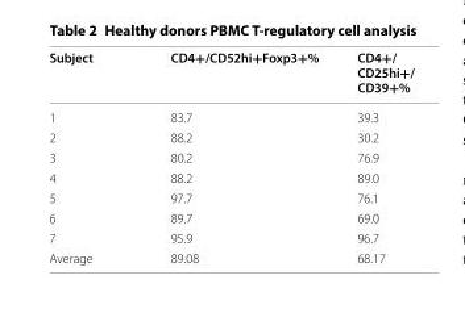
<table><thead><tr><td>Subject</td><td>CD4+/CD52hi+Foxp3+%</td><td>CD4+/ CD25hi+/ CD39+%</td></tr></thead><tbody><tr><td>1</td><td>83.7</td><td>39.3</td></tr><tr><td>2</td><td>88.2</td><td>30.2</td></tr><tr><td>3</td><td>80.2</td><td>76.9</td></tr><tr><td>4</td><td>88.2</td><td>89.0</td></tr><tr><td>5</td><td>97.7</td><td>76.1</td></tr><tr><td>6</td><td>89.7</td><td>69.0</td></tr><tr><td>7</td><td>95.9</td><td>96.7</td></tr><tr><td>Average</td><td>89.08</td><td>68.17</td></tr></tbody></table>